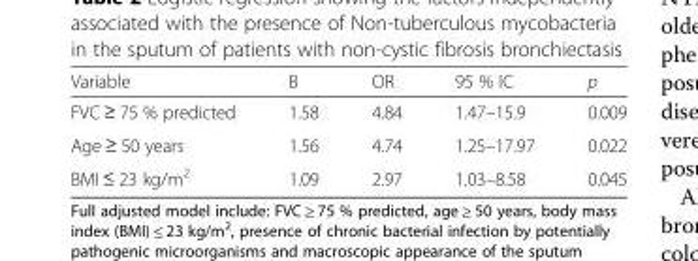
<table><thead><tr><td>Variable</td><td>B</td><td>OR</td><td>95 % IC</td><td>p</td></tr></thead><tbody><tr><td>FVC ≥ 75 % predicted</td><td>1.58</td><td>4.84</td><td>1.47–15.9</td><td>0.009</td></tr><tr><td>Age ≥ 50 years</td><td>1.56</td><td>4.74</td><td>1.25–17.97</td><td>0.022</td></tr><tr><td>BMI ≤ 23 kg/m<sup>2</sup></td><td>1.09</td><td>2.97</td><td>1.03–8.58</td><td>0.045</td></tr></tbody></table>